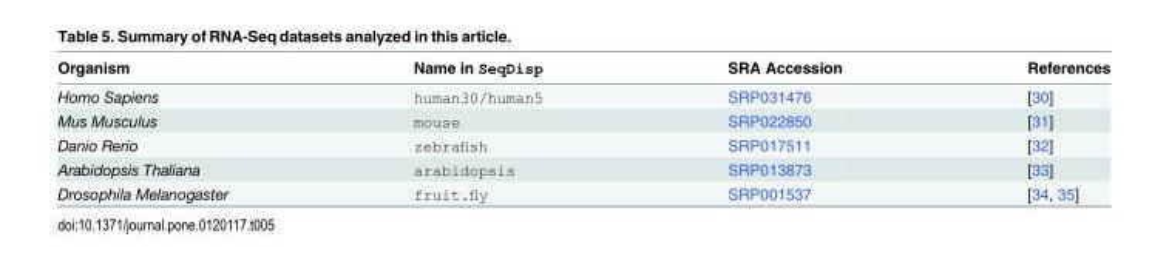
<table><thead><tr><td>Organism</td><td>Name in SeqDisp</td><td>SRA Accession</td><td>References</td></tr></thead><tbody><tr><td>Homo Sapiens</td><td>human30/human5</td><td>SRP031476</td><td>[30]</td></tr><tr><td>Mus Musculus</td><td>mouse</td><td>SRP022850</td><td>[31]</td></tr><tr><td>Danio Rerio</td><td>zebrafish</td><td>SRP017511</td><td>[32]</td></tr><tr><td>Arabidopsis Thaliana</td><td>arabidopsis</td><td>SRP013873</td><td>[33]</td></tr><tr><td>Drosophila Melanogaster</td><td>fruit.fly</td><td>SRP001537</td><td>[34, 35]</td></tr></tbody></table>